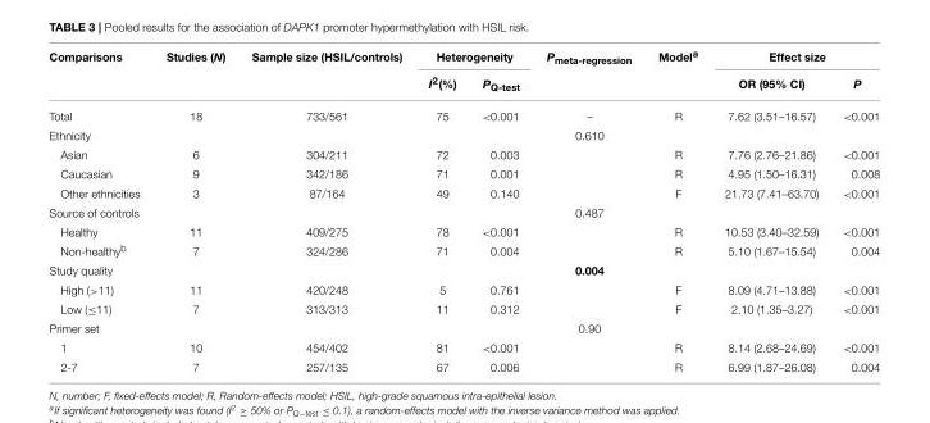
<table><thead><tr><td rowspan="2">Comparisons</td><td rowspan="2">Studies (N)</td><td rowspan="2">Sample size (HSIL/controls)</td><td colspan="2">Heterogeneity</td><td rowspan="2">P<sub>meta-regression</sub></td><td rowspan="2">Model<sup>a</sup></td><td colspan="2">Effect size</td></tr><tr><td>I<sup>2</sup>(%)</td><td>P<sub>Q-test</sub></td><td>OR (95% CI)</td><td>P</td></tr></thead><tbody><tr><td>Total</td><td>18</td><td>733/561</td><td>75</td><td>&lt;0.001</td><td>–</td><td>R</td><td>7.62 (3.51–16.57)</td><td>&lt;0.001</td></tr><tr><td>Ethnicity</td><td></td><td></td><td></td><td></td><td>0.610</td><td></td><td></td><td></td></tr><tr><td>Asian</td><td>6</td><td>304/211</td><td>72</td><td>0.003</td><td></td><td>R</td><td>7.76 (2.76–21.86)</td><td>&lt;0.001</td></tr><tr><td>Caucasian</td><td>9</td><td>342/186</td><td>71</td><td>0.001</td><td></td><td>R</td><td>4.95 (1.50–16.31)</td><td>0.008</td></tr><tr><td>Other ethnicities</td><td>3</td><td>87/164</td><td>49</td><td>0.140</td><td></td><td>F</td><td>21.73 (7.41–63.70)</td><td>&lt;0.001</td></tr><tr><td>Source of controls</td><td></td><td></td><td></td><td></td><td>0.487</td><td></td><td></td><td></td></tr><tr><td>Healthy</td><td>11</td><td>409/275</td><td>78</td><td>&lt;0.001</td><td></td><td>R</td><td>10.53 (3.40–32.59)</td><td>&lt;0.001</td></tr><tr><td>Non-healthy<sup>b</sup></td><td>7</td><td>324/286</td><td>71</td><td>0.004</td><td></td><td>R</td><td>5.10 (1.67–15.54)</td><td>0.004</td></tr><tr><td>Study quality</td><td></td><td></td><td></td><td></td><td>0.004</td><td></td><td></td><td></td></tr><tr><td>High (&gt;11)</td><td>11</td><td>420/248</td><td>5</td><td>0.761</td><td></td><td>F</td><td>8.09 (4.71–13.88)</td><td>&lt;0.001</td></tr><tr><td>Low (≤11)</td><td>7</td><td>313/313</td><td>11</td><td>0.312</td><td></td><td>F</td><td>2.10 (1.35–3.27)</td><td>&lt;0.001</td></tr><tr><td>Primer set</td><td></td><td></td><td></td><td></td><td>0.90</td><td></td><td></td><td></td></tr><tr><td>1</td><td>10</td><td>454/402</td><td>81</td><td>&lt;0.001</td><td></td><td>R</td><td>8.14 (2.68–24.69)</td><td>&lt;0.001</td></tr><tr><td>2-7</td><td>7</td><td>257/135</td><td>67</td><td>0.006</td><td></td><td>R</td><td>6.99 (1.87–26.08)</td><td>0.004</td></tr></tbody></table>